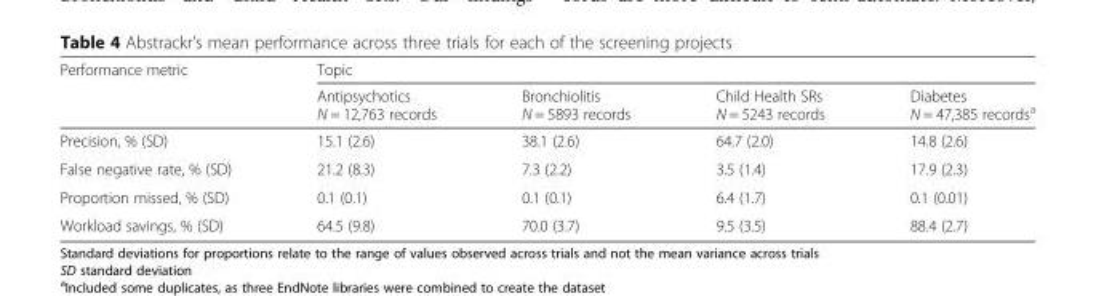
<table><thead><tr><td rowspan="2">Performance metric</td><td colspan="4">Topic</td></tr><tr><td>Antipsychotics N = 12,763 records</td><td>Bronchiolitis N = 5893 records</td><td>Child Health SRs N = 5243 records</td><td>Diabetes N = 47,385 records<sup>a</sup></td></tr></thead><tbody><tr><td>Precision, % (SD)</td><td>15.1 (2.6)</td><td>38.1 (2.6)</td><td>64.7 (2.0)</td><td>14.8 (2.6)</td></tr><tr><td>False negative rate, % (SD)</td><td>21.2 (8.3)</td><td>7.3 (2.2)</td><td>3.5 (1.4)</td><td>17.9 (2.3)</td></tr><tr><td>Proportion missed, % (SD)</td><td>0.1 (0.1)</td><td>0.1 (0.1)</td><td>6.4 (1.7)</td><td>0.1 (0.01)</td></tr><tr><td>Workload savings, % (SD)</td><td>64.5 (9.8)</td><td>70.0 (3.7)</td><td>9.5 (3.5)</td><td>88.4 (2.7)</td></tr></tbody></table>